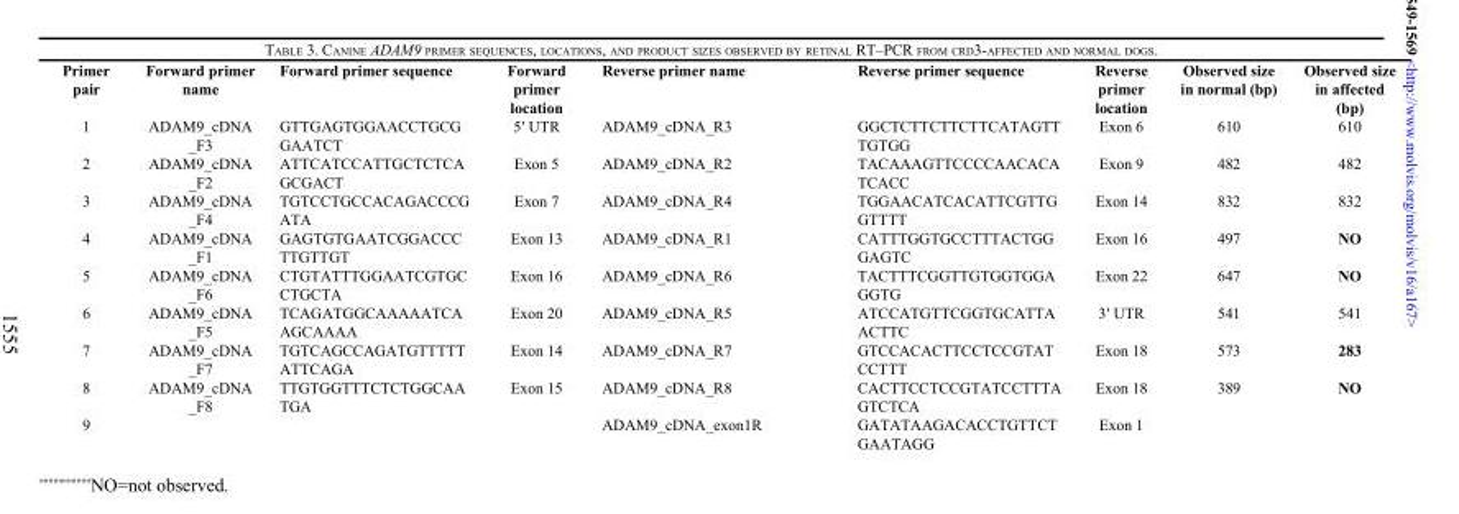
<table><thead><tr><td>Primer pair</td><td>Forward primer name</td><td>Forward primer sequence</td><td>Forward primer location</td><td>Reverse primer name</td><td>Reverse primer sequence</td><td>Reverse primer location</td><td>Observed size in normal (bp)</td><td>Observed size in affected (bp)</td></tr></thead><tbody><tr><td>1</td><td>ADAM9_cDNA _F3</td><td>GTTGAGTGGAACCTGCG GAATCT</td><td>5′ UTR</td><td>ADAM9_cDNA_R3</td><td>GGCTCTTCTTCTTCATAGTT TGTGG</td><td>Exon 6</td><td>610</td><td>610</td></tr><tr><td>2</td><td>ADAM9_cDNA _F2</td><td>ATTCATCCATTGCTCTCA GCGACT</td><td>Exon 5</td><td>ADAM9_cDNA_R2</td><td>TACAAAGTTCCCCAACACA TCACC</td><td>Exon 9</td><td>482</td><td>482</td></tr><tr><td>3</td><td>ADAM9_cDNA _F4</td><td>TGTCCTGCCACAGACCCG ATA</td><td>Exon 7</td><td>ADAM9_cDNA_R4</td><td>TGGAACATCACATTCGTTG GTTTT</td><td>Exon 14</td><td>832</td><td>832</td></tr><tr><td>4</td><td>ADAM9_cDNA _F1</td><td>GAGTGTGAATCGGACCC TTGTTGT</td><td>Exon 13</td><td>ADAM9_cDNA_R1</td><td>CATTTGGTGCCTTTACTGG GAGTC</td><td>Exon 16</td><td>497</td><td>NO</td></tr><tr><td>5</td><td>ADAM9_cDNA _F6</td><td>CTGTATTTGGAATCGTGC CTGCTA</td><td>Exon 16</td><td>ADAM9_cDNA_R6</td><td>TACTTTCGGTTGTGGTGGA GGTG</td><td>Exon 22</td><td>647</td><td>NO</td></tr><tr><td>6</td><td>ADAM9_cDNA _F5</td><td>TCAGATGGCAAAAATCA AGCAAAA</td><td>Exon 20</td><td>ADAM9_cDNA_R5</td><td>ATCCATGTTCGGTGCATTA ACTTC</td><td>3′ UTR</td><td>541</td><td>541</td></tr><tr><td>7</td><td>ADAM9_cDNA _F7</td><td>TGTCAGCCAGATGTTTTT ATTCAGA</td><td>Exon 14</td><td>ADAM9_cDNA_R7</td><td>GTCCACACTTCCTCCGTAT CCTTT</td><td>Exon 18</td><td>573</td><td>283</td></tr><tr><td>8</td><td>ADAM9_cDNA _F8</td><td>TTGTGGTTTCTCTGGCAA TGA</td><td>Exon 15</td><td>ADAM9_cDNA_R8</td><td>CACTTCCTCCGTATCCTTTA GTCTCA</td><td>Exon 18</td><td>389</td><td>NO</td></tr><tr><td>9</td><td></td><td></td><td></td><td>ADAM9_cDNA_exon1R</td><td>GATATAAGACACCTGTTCT GAATAGG</td><td>Exon 1</td><td></td><td></td></tr></tbody></table>